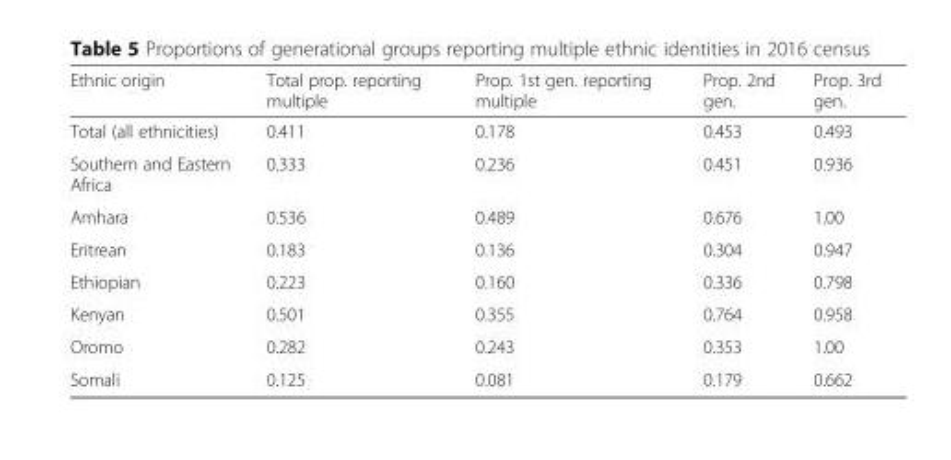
<table><thead><tr><td>Ethnic origin</td><td>Total prop. reporting multiple</td><td>Prop. 1st gen. reporting multiple</td><td>Prop. 2nd gen.</td><td>Prop. 3rd gen.</td></tr></thead><tbody><tr><td>Total (all ethnicities)</td><td>0.411</td><td>0.178</td><td>0.453</td><td>0.493</td></tr><tr><td>Southern and Eastern Africa</td><td>0.333</td><td>0.236</td><td>0.451</td><td>0.936</td></tr><tr><td>Amhara</td><td>0.536</td><td>0.489</td><td>0.676</td><td>1.00</td></tr><tr><td>Eritrean</td><td>0.183</td><td>0.136</td><td>0.304</td><td>0.947</td></tr><tr><td>Ethiopian</td><td>0.223</td><td>0.160</td><td>0.336</td><td>0.798</td></tr><tr><td>Kenyan</td><td>0.501</td><td>0.355</td><td>0.764</td><td>0.958</td></tr><tr><td>Oromo</td><td>0.282</td><td>0.243</td><td>0.353</td><td>1.00</td></tr><tr><td>Somali</td><td>0.125</td><td>0.081</td><td>0.179</td><td>0.662</td></tr></tbody></table>